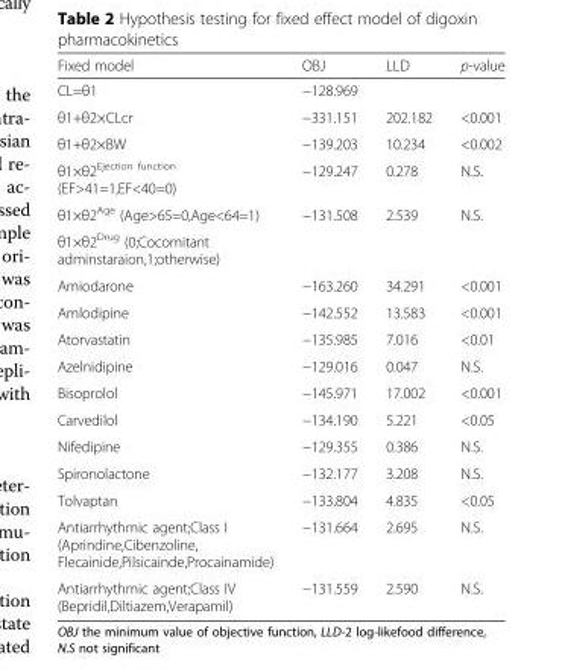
<table><thead><tr><td>Fixed model</td><td>OBJ</td><td>LLD</td><td>p-value</td></tr></thead><tbody><tr><td>CL=θ1</td><td>−128.969</td><td></td><td></td></tr><tr><td>θ1+θ2×CLcr</td><td>−331.151</td><td>202.182</td><td>&lt;0.001</td></tr><tr><td>θ1+θ2×BW</td><td>−139.203</td><td>10.234</td><td>&lt;0.002</td></tr><tr><td>θ1×θ2<sup>Ejection function</sup> (EF&gt;41=1,EF&lt;40=0)</td><td>−129.247</td><td>0.278</td><td>N.S.</td></tr><tr><td>θ1×θ2<sup>Age</sup> (Age&gt;65=0,Age&lt;64=1)</td><td>−131.508</td><td>2.539</td><td>N.S.</td></tr><tr><td colspan="4">θ1×θ2<sup>Drug</sup> (0;Cocomitant adminstaraion,1;otherwise)</td></tr><tr><td>Amiodarone</td><td>−163.260</td><td>34.291</td><td>&lt;0.001</td></tr><tr><td>Amlodipine</td><td>−142.552</td><td>13.583</td><td>&lt;0.001</td></tr><tr><td>Atorvastatin</td><td>−135.985</td><td>7.016</td><td>&lt;0.01</td></tr><tr><td>Azelnidipine</td><td>−129.016</td><td>0.047</td><td>N.S.</td></tr><tr><td>Bisoprolol</td><td>−145.971</td><td>17.002</td><td>&lt;0.001</td></tr><tr><td>Carvedilol</td><td>−134.190</td><td>5.221</td><td>&lt;0.05</td></tr><tr><td>Nifedipine</td><td>−129.355</td><td>0.386</td><td>N.S.</td></tr><tr><td>Spironolactone</td><td>−132.177</td><td>3.208</td><td>N.S.</td></tr><tr><td>Tolvaptan</td><td>−133.804</td><td>4.835</td><td>&lt;0.05</td></tr><tr><td>Antiarrhythmic agent;Class I (Aprindine,Cibenzoline, Flecainide,Pilsicainde,Procainamide)</td><td>−131.664</td><td>2.695</td><td>N.S.</td></tr><tr><td>Antiarrhythmic agent;Class IV (Bepridil,Diltiazem,Verapamil)</td><td>−131.559</td><td>2.590</td><td>N.S.</td></tr></tbody></table>